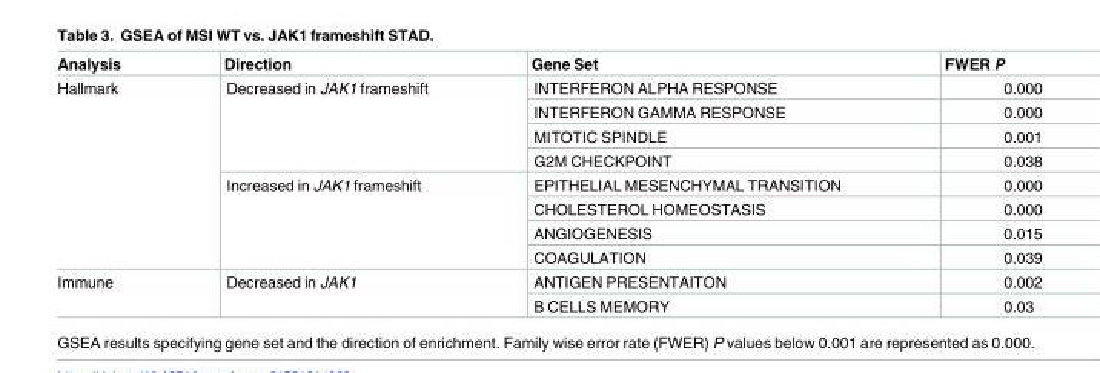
<table><thead><tr><td>Analysis</td><td>Direction</td><td>Gene Set</td><td>FWER P</td></tr></thead><tbody><tr><td rowspan="8">Hallmark</td><td rowspan="4">Decreased in JAK1 frameshift</td><td>INTERFERON ALPHA RESPONSE</td><td>0.000</td></tr><tr><td>INTERFERON GAMMA RESPONSE</td><td>0.000</td></tr><tr><td>MITOTIC SPINDLE</td><td>0.001</td></tr><tr><td>G2M CHECKPOINT</td><td>0.038</td></tr><tr><td rowspan="4">Increased in JAK1 frameshift</td><td>EPITHELIAL MESENCHYMAL TRANSITION</td><td>0.000</td></tr><tr><td>CHOLESTEROL HOMEOSTASIS</td><td>0.000</td></tr><tr><td>ANGIOGENESIS</td><td>0.015</td></tr><tr><td>COAGULATION</td><td>0.039</td></tr><tr><td rowspan="2">Immune</td><td rowspan="2">Decreased in JAK1</td><td>ANTIGEN PRESENTAITON</td><td>0.002</td></tr><tr><td>B CELLS MEMORY</td><td>0.03</td></tr></tbody></table>